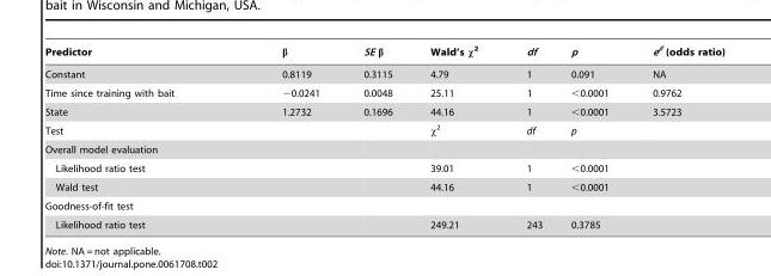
<table><thead><tr><td>Predictor</td><td>β</td><td>SE β</td><td>Wald’s χ<sup>2</sup></td><td>df</td><td>p</td><td>e<sup>β</sup> (odds ratio)</td></tr></thead><tbody><tr><td>Constant</td><td>0.8119</td><td>0.3115</td><td>4.79</td><td>1</td><td>0.091</td><td>NA</td></tr><tr><td>Time since training with bait</td><td>−0.0241</td><td>0.0048</td><td>25.11</td><td>1</td><td>&lt;0.0001</td><td>0.9762</td></tr><tr><td>State</td><td>1.2732</td><td>0.1696</td><td>44.16</td><td>1</td><td>&lt;0.0001</td><td>3.5723</td></tr><tr><td>Test</td><td></td><td></td><td>χ<sup>2</sup></td><td>df</td><td>p</td><td></td></tr><tr><td colspan="7">Overall model evaluation</td></tr><tr><td colspan="2">Likelihood ratio test</td><td></td><td>39.01</td><td>1</td><td>&lt;0.0001</td><td></td></tr><tr><td colspan="2">Wald test</td><td></td><td>44.16</td><td>1</td><td>&lt;0.0001</td><td></td></tr><tr><td colspan="7">Goodness-of-fit test</td></tr><tr><td colspan="2">Likelihood ratio test</td><td></td><td>249.21</td><td>243</td><td>0.3785</td><td></td></tr></tbody></table>